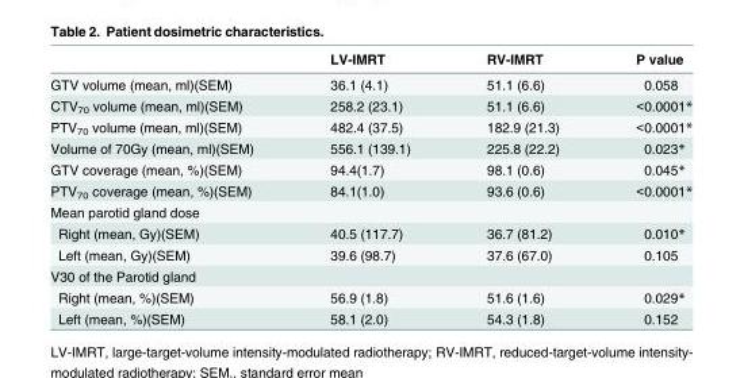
<table><thead><tr><td></td><td>LV-IMRT</td><td>RV-IMRT</td><td>P value</td></tr></thead><tbody><tr><td>GTV volume (mean, ml)(SEM)</td><td>36.1 (4.1)</td><td>51.1 (6.6)</td><td>0.058</td></tr><tr><td>CTV<sub>70</sub> volume (mean, ml)(SEM)</td><td>258.2 (23.1)</td><td>51.1 (6.6)</td><td>&lt;0.0001*</td></tr><tr><td>PTV<sub>70</sub> volume (mean, ml)(SEM)</td><td>482.4 (37.5)</td><td>182.9 (21.3)</td><td>&lt;0.0001*</td></tr><tr><td>Volume of 70Gy (mean, ml)(SEM)</td><td>556.1 (139.1)</td><td>225.8 (22.2)</td><td>0.023*</td></tr><tr><td>GTV coverage (mean, %)(SEM)</td><td>94.4(1.7)</td><td>98.1 (0.6)</td><td>0.045*</td></tr><tr><td>PTV<sub>70</sub> coverage (mean, %)(SEM)</td><td>84.1(1.0)</td><td>93.6 (0.6)</td><td>&lt;0.0001*</td></tr><tr><td colspan="4">Mean parotid gland dose</td></tr><tr><td>Right (mean, Gy)(SEM)</td><td>40.5 (117.7)</td><td>36.7 (81.2)</td><td>0.010*</td></tr><tr><td>Left (mean, Gy)(SEM)</td><td>39.6 (98.7)</td><td>37.6 (67.0)</td><td>0.105</td></tr><tr><td colspan="4">V30 of the Parotid gland</td></tr><tr><td>Right (mean, %)(SEM)</td><td>56.9 (1.8)</td><td>51.6 (1.6)</td><td>0.029*</td></tr><tr><td>Left (mean, %)(SEM)</td><td>58.1 (2.0)</td><td>54.3 (1.8)</td><td>0.152</td></tr></tbody></table>